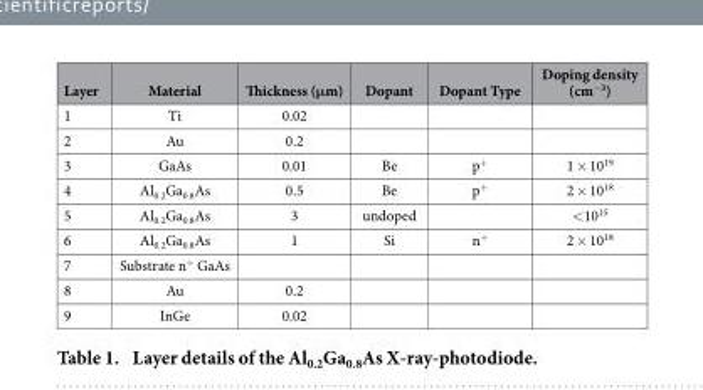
<table><thead><tr><td>Layer</td><td>Material</td><td>Thickness (μm)</td><td>Dopant</td><td>Dopant Type</td><td>Doping density (cm<sup>−3</sup>)</td></tr></thead><tbody><tr><td>1</td><td>Ti</td><td>0.02</td><td></td><td></td><td></td></tr><tr><td>2</td><td>Au</td><td>0.2</td><td></td><td></td><td></td></tr><tr><td>3</td><td>GaAs</td><td>0.01</td><td>Be</td><td>p<sup>+</sup></td><td>1 × 10<sup>19</sup></td></tr><tr><td>4</td><td>Al<sub>0.2</sub>Ga<sub>0.8</sub>As</td><td>0.5</td><td>Be</td><td>p<sup>+</sup></td><td>2 × 10<sup>18</sup></td></tr><tr><td>5</td><td>Al<sub>0.2</sub>Ga<sub>0.8</sub>As</td><td>3</td><td>undoped</td><td></td><td>&lt; 10<sup>15</sup></td></tr><tr><td>6</td><td>Al<sub>0.2</sub>Ga<sub>0.8</sub>As</td><td>1</td><td>Si</td><td>n<sup>+</sup></td><td>2 × 10<sup>18</sup></td></tr><tr><td>7</td><td>Substrate n<sup>+</sup> GaAs</td><td></td><td></td><td></td><td></td></tr><tr><td>8</td><td>Au</td><td>0.2</td><td></td><td></td><td></td></tr><tr><td>9</td><td>InGe</td><td>0.02</td><td></td><td></td><td></td></tr></tbody></table>